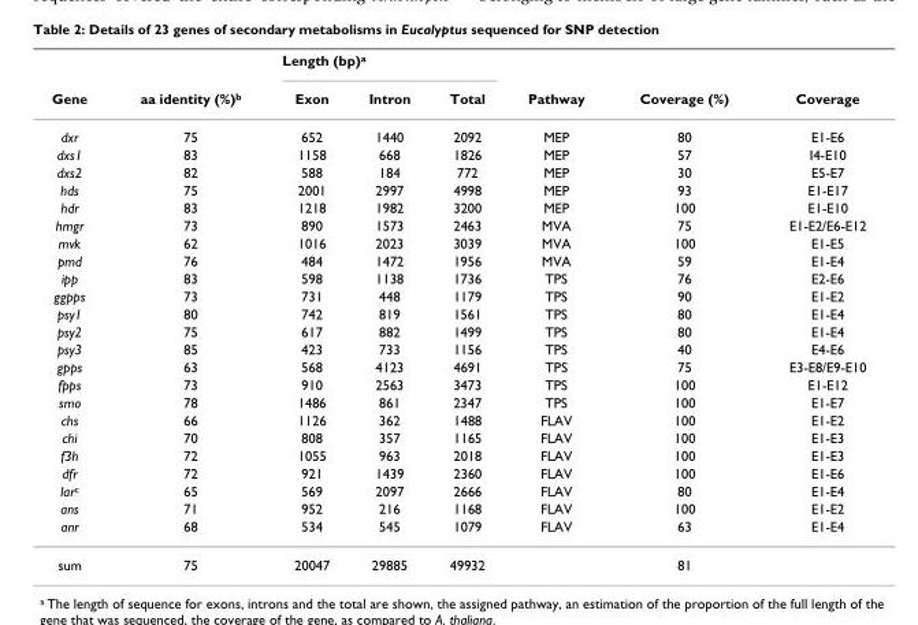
<table><thead><tr><td rowspan="2">Gene</td><td rowspan="2">aa identity (%)<sup>b</sup></td><td colspan="3">Length (bp)<sup>a</sup></td><td rowspan="2">Pathway</td><td rowspan="2">Coverage (%)</td><td rowspan="2">Coverage</td></tr><tr><td>Exon</td><td>Intron</td><td>Total</td></tr></thead><tbody><tr><td>dxr</td><td>75</td><td>652</td><td>1440</td><td>2092</td><td>MEP</td><td>80</td><td>E1-E6</td></tr><tr><td>dxs1</td><td>83</td><td>1158</td><td>668</td><td>1826</td><td>MEP</td><td>57</td><td>I4-E10</td></tr><tr><td>dxs2</td><td>82</td><td>588</td><td>184</td><td>772</td><td>MEP</td><td>30</td><td>E5-E7</td></tr><tr><td>hds</td><td>75</td><td>2001</td><td>2997</td><td>4998</td><td>MEP</td><td>93</td><td>E1-E17</td></tr><tr><td>hdr</td><td>83</td><td>1218</td><td>1982</td><td>3200</td><td>MEP</td><td>100</td><td>E1-E10</td></tr><tr><td>hmgr</td><td>73</td><td>890</td><td>1573</td><td>2463</td><td>MVA</td><td>75</td><td>E1-E2/E6-E12</td></tr><tr><td>mvk</td><td>62</td><td>1016</td><td>2023</td><td>3039</td><td>MVA</td><td>100</td><td>E1-E5</td></tr><tr><td>pmd</td><td>76</td><td>484</td><td>1472</td><td>1956</td><td>MVA</td><td>59</td><td>E1-E4</td></tr><tr><td>ipp</td><td>83</td><td>598</td><td>1138</td><td>1736</td><td>TPS</td><td>76</td><td>E2-E6</td></tr><tr><td>ggpps</td><td>73</td><td>731</td><td>448</td><td>1179</td><td>TPS</td><td>90</td><td>E1-E2</td></tr><tr><td>psy1</td><td>80</td><td>742</td><td>819</td><td>1561</td><td>TPS</td><td>80</td><td>E1-E4</td></tr><tr><td>psy2</td><td>75</td><td>617</td><td>882</td><td>1499</td><td>TPS</td><td>80</td><td>E1-E4</td></tr><tr><td>psy3</td><td>85</td><td>423</td><td>733</td><td>1156</td><td>TPS</td><td>40</td><td>E4-E6</td></tr><tr><td>gpps</td><td>63</td><td>568</td><td>4123</td><td>4691</td><td>TPS</td><td>75</td><td>E3-E8/E9-E10</td></tr><tr><td>fpps</td><td>73</td><td>910</td><td>2563</td><td>3473</td><td>TPS</td><td>100</td><td>E1-E12</td></tr><tr><td>smo</td><td>78</td><td>1486</td><td>861</td><td>2347</td><td>TPS</td><td>100</td><td>E1-E7</td></tr><tr><td>chs</td><td>66</td><td>1126</td><td>362</td><td>1488</td><td>FLAV</td><td>100</td><td>E1-E2</td></tr><tr><td>chi</td><td>70</td><td>808</td><td>357</td><td>1165</td><td>FLAV</td><td>100</td><td>E1-E3</td></tr><tr><td>f3h</td><td>72</td><td>1055</td><td>963</td><td>2018</td><td>FLAV</td><td>100</td><td>E1-E3</td></tr><tr><td>dfr</td><td>72</td><td>921</td><td>1439</td><td>2360</td><td>FLAV</td><td>100</td><td>E1-E6</td></tr><tr><td>lar<sup>c</sup></td><td>65</td><td>569</td><td>2097</td><td>2666</td><td>FLAV</td><td>80</td><td>E1-E4</td></tr><tr><td>ans</td><td>71</td><td>952</td><td>216</td><td>1168</td><td>FLAV</td><td>100</td><td>E1-E2</td></tr><tr><td>anr</td><td>68</td><td>534</td><td>545</td><td>1079</td><td>FLAV</td><td>63</td><td>E1-E4</td></tr><tr><td>sum</td><td>75</td><td>20047</td><td>29885</td><td>49932</td><td></td><td>81</td><td></td></tr></tbody></table>